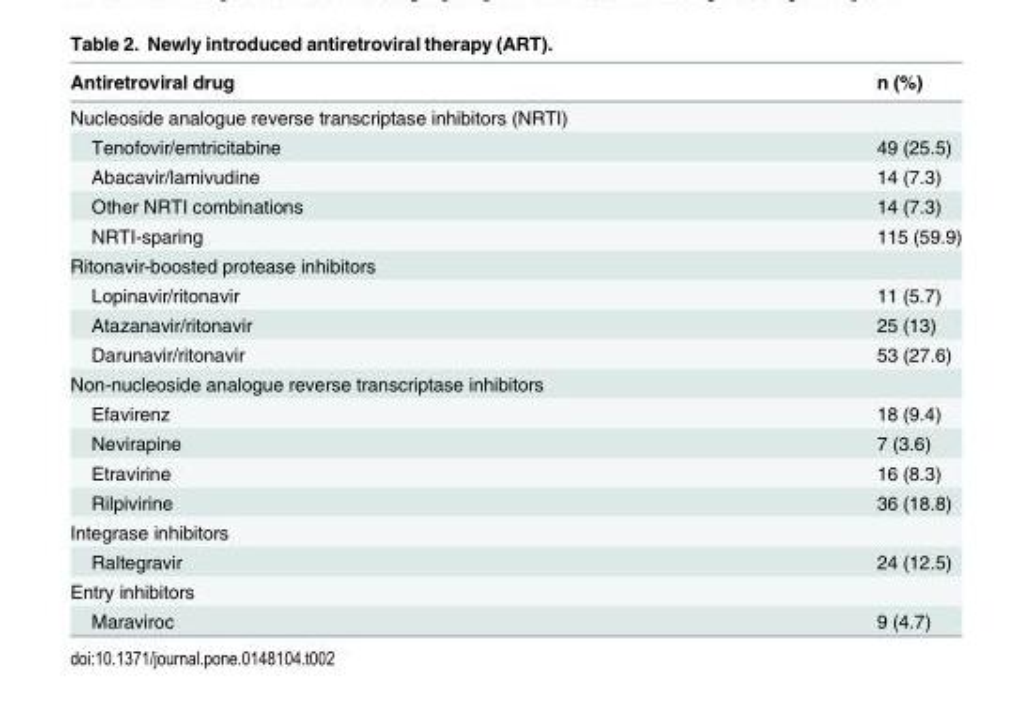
<table><thead><tr><td>Antiretroviral drug</td><td>n (%)</td></tr></thead><tbody><tr><td colspan="2">Nucleoside analogue reverse transcriptase inhibitors (NRTI)</td></tr><tr><td>Tenofovir/emtricitabine</td><td>49 (25.5)</td></tr><tr><td>Abacavir/lamivudine</td><td>14 (7.3)</td></tr><tr><td>Other NRTI combinations</td><td>14 (7.3)</td></tr><tr><td>NRTI-sparing</td><td>115 (59.9)</td></tr><tr><td colspan="2">Ritonavir-boosted protease inhibitors</td></tr><tr><td>Lopinavir/ritonavir</td><td>11 (5.7)</td></tr><tr><td>Atazanavir/ritonavir</td><td>25 (13)</td></tr><tr><td>Darunavir/ritonavir</td><td>53 (27.6)</td></tr><tr><td colspan="2">Non-nucleoside analogue reverse transcriptase inhibitors</td></tr><tr><td>Efavirenz</td><td>18 (9.4)</td></tr><tr><td>Nevirapine</td><td>7 (3.6)</td></tr><tr><td>Etravirine</td><td>16 (8.3)</td></tr><tr><td>Rilpivirine</td><td>36 (18.8)</td></tr><tr><td colspan="2">Integrase inhibitors</td></tr><tr><td>Raltegravir</td><td>24 (12.5)</td></tr><tr><td colspan="2">Entry inhibitors</td></tr><tr><td>Maraviroc</td><td>9 (4.7)</td></tr></tbody></table>